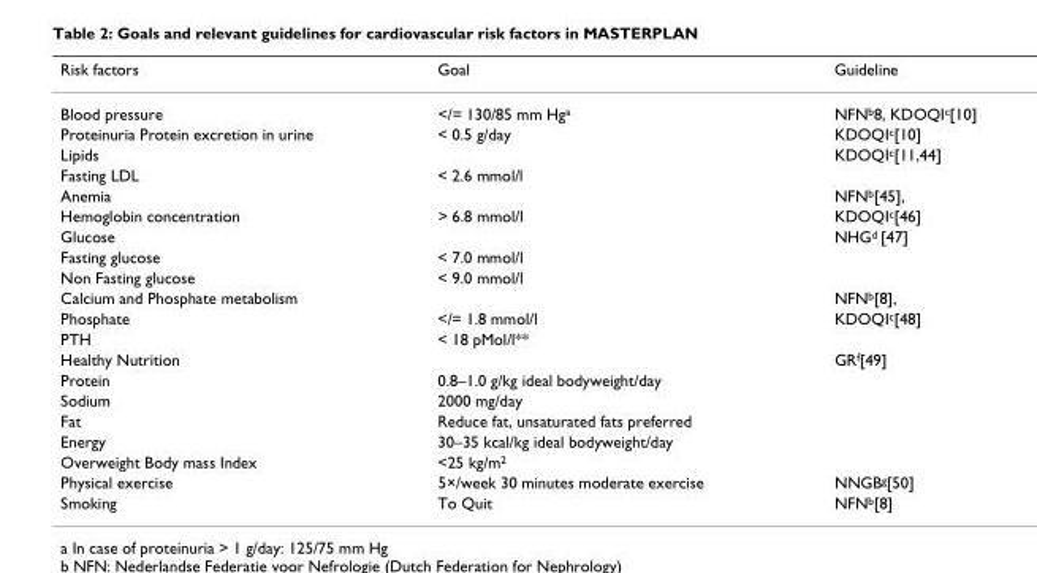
<table><thead><tr><td>Risk factors</td><td>Goal</td><td>Guideline</td></tr></thead><tbody><tr><td>Blood pressure</td><td>&lt;/= 130/85 mm Hg<sup>a</sup></td><td>NFN<sup>b</sup>8, KDOQI<sup>c</sup>[10]</td></tr><tr><td>Proteinuria Protein excretion in urine</td><td>&lt; 0.5 g/day</td><td>KDOQI<sup>c</sup>[10]</td></tr><tr><td>Lipids</td><td></td><td>KDOQI<sup>c</sup>[11,44]</td></tr><tr><td>Fasting LDL</td><td>&lt; 2.6 mmol/l</td><td></td></tr><tr><td>Anemia</td><td></td><td>NFN<sup>b</sup>[45],</td></tr><tr><td>Hemoglobin concentration</td><td>&gt; 6.8 mmol/l</td><td>KDOQI<sup>c</sup>[46]</td></tr><tr><td>Glucose</td><td></td><td>NHG<sup>d</sup> [47]</td></tr><tr><td>Fasting glucose</td><td>&lt; 7.0 mmol/l</td><td></td></tr><tr><td>Non Fasting glucose</td><td>&lt; 9.0 mmol/l</td><td></td></tr><tr><td>Calcium and Phosphate metabolism</td><td></td><td>NFN<sup>b</sup>[8],</td></tr><tr><td>Phosphate</td><td>&lt;/= 1.8 mmol/l</td><td>KDOQI<sup>c</sup>[48]</td></tr><tr><td>PTH</td><td>&lt; 18 pMol/l**</td><td></td></tr><tr><td>Healthy Nutrition</td><td></td><td>GR<sup>f</sup>[49]</td></tr><tr><td>Protein</td><td>0.8–1.0 g/kg ideal bodyweight/day</td><td></td></tr><tr><td>Sodium</td><td>2000 mg/day</td><td></td></tr><tr><td>Fat</td><td>Reduce fat, unsaturated fats preferred</td><td></td></tr><tr><td>Energy</td><td>30–35 kcal/kg ideal bodyweight/day</td><td></td></tr><tr><td>Overweight Body mass Index</td><td>&lt;25 kg/m<sup>2</sup></td><td></td></tr><tr><td>Physical exercise</td><td>5×/week 30 minutes moderate exercise</td><td>NNGB<sup>g</sup>[50]</td></tr><tr><td>Smoking</td><td>To Quit</td><td>NFN<sup>b</sup>[8]</td></tr></tbody></table>